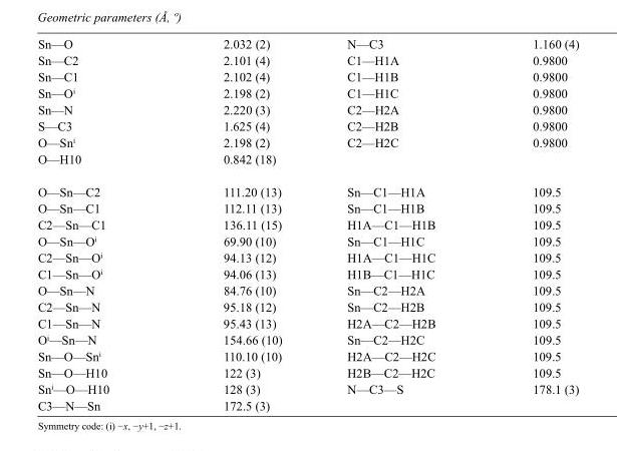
<table><tbody><tr><td>Sn—O</td><td>2.032 (2)</td><td>N—C3</td><td>1.160 (4)</td></tr><tr><td>Sn—C2</td><td>2.101 (4)</td><td>C1—H1A</td><td>0.9800</td></tr><tr><td>Sn—C1</td><td>2.102 (4)</td><td>C1—H1B</td><td>0.9800</td></tr><tr><td>Sn—O<sup>i</sup></td><td>2.198 (2)</td><td>C1—H1C</td><td>0.9800</td></tr><tr><td>Sn—N</td><td>2.220 (3)</td><td>C2—H2A</td><td>0.9800</td></tr><tr><td>S—C3</td><td>1.625 (4)</td><td>C2—H2B</td><td>0.9800</td></tr><tr><td>O—Sn<sup>i</sup></td><td>2.198 (2)</td><td>C2—H2C</td><td>0.9800</td></tr><tr><td>O—H10</td><td>0.842 (18)</td><td></td><td></td></tr><tr><td>O—Sn—C2</td><td>111.20 (13)</td><td>Sn—C1—H1A</td><td>109.5</td></tr><tr><td>O—Sn—C1</td><td>112.11 (13)</td><td>Sn—C1—H1B</td><td>109.5</td></tr><tr><td>C2—Sn—C1</td><td>136.11 (15)</td><td>H1A—C1—H1B</td><td>109.5</td></tr><tr><td>O—Sn—O<sup>i</sup></td><td>69.90 (10)</td><td>Sn—C1—H1C</td><td>109.5</td></tr><tr><td>C2—Sn—O<sup>i</sup></td><td>94.13 (12)</td><td>H1A—C1—H1C</td><td>109.5</td></tr><tr><td>C1—Sn—O<sup>i</sup></td><td>94.06 (13)</td><td>H1B—C1—H1C</td><td>109.5</td></tr><tr><td>O—Sn—N</td><td>84.76 (10)</td><td>Sn—C2—H2A</td><td>109.5</td></tr><tr><td>C2—Sn—N</td><td>95.18 (12)</td><td>Sn—C2—H2B</td><td>109.5</td></tr><tr><td>C1—Sn—N</td><td>95.43 (13)</td><td>H2A—C2—H2B</td><td>109.5</td></tr><tr><td>O<sup>i</sup>—Sn—N</td><td>154.66 (10)</td><td>Sn—C2—H2C</td><td>109.5</td></tr><tr><td>Sn—O—Sn<sup>i</sup></td><td>110.10 (10)</td><td>H2A—C2—H2C</td><td>109.5</td></tr><tr><td>Sn—O—H10</td><td>122 (3)</td><td>H2B—C2—H2C</td><td>109.5</td></tr><tr><td>Sn<sup>i</sup>—O—H10</td><td>128 (3)</td><td>N—C3—S</td><td>178.1 (3)</td></tr><tr><td>C3—N—Sn</td><td>172.5 (3)</td><td></td><td></td></tr></tbody></table>